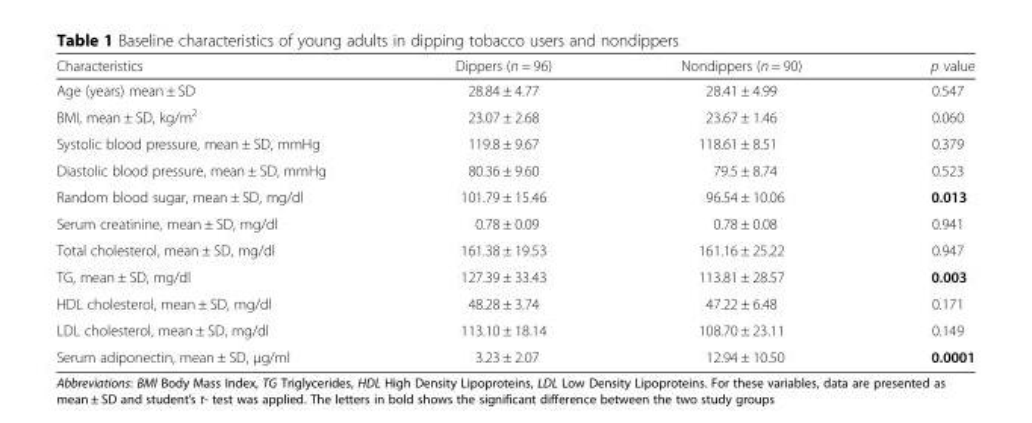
<table><thead><tr><td>Characteristics</td><td>Dippers (n = 96)</td><td>Nondippers (n = 90)</td><td>p value</td></tr></thead><tbody><tr><td>Age (years) mean ± SD</td><td>28.84 ± 4.77</td><td>28.41 ± 4.99</td><td>0.547</td></tr><tr><td>BMI, mean ± SD, kg/m<sup>2</sup></td><td>23.07 ± 2.68</td><td>23.67 ± 1.46</td><td>0.060</td></tr><tr><td>Systolic blood pressure, mean ± SD, mmHg</td><td>119.8 ± 9.67</td><td>118.61 ± 8.51</td><td>0.379</td></tr><tr><td>Diastolic blood pressure, mean ± SD, mmHg</td><td>80.36 ± 9.60</td><td>79.5 ± 8.74</td><td>0.523</td></tr><tr><td>Random blood sugar, mean ± SD, mg/dl</td><td>101.79 ± 15.46</td><td>96.54 ± 10.06</td><td>0.013</td></tr><tr><td>Serum creatinine, mean ± SD, mg/dl</td><td>0.78 ± 0.09</td><td>0.78 ± 0.08</td><td>0.941</td></tr><tr><td>Total cholesterol, mean ± SD, mg/dl</td><td>161.38 ± 19.53</td><td>161.16 ± 25.22</td><td>0.947</td></tr><tr><td>TG, mean ± SD, mg/dl</td><td>127.39 ± 33.43</td><td>113.81 ± 28.57</td><td>0.003</td></tr><tr><td>HDL cholesterol, mean ± SD, mg/dl</td><td>48.28 ± 3.74</td><td>47.22 ± 6.48</td><td>0.171</td></tr><tr><td>LDL cholesterol, mean ± SD, mg/dl</td><td>113.10 ± 18.14</td><td>108.70 ± 23.11</td><td>0.149</td></tr><tr><td>Serum adiponectin, mean ± SD, μg/ml</td><td>3.23 ± 2.07</td><td>12.94 ± 10.50</td><td>0.0001</td></tr></tbody></table>